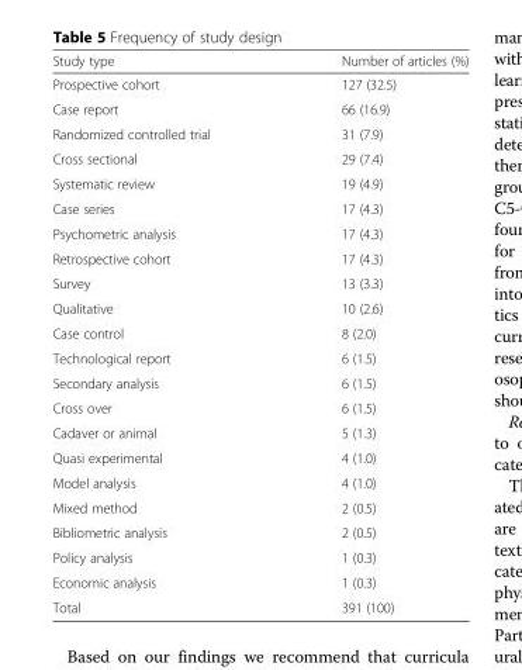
<table><thead><tr><td>Study type</td><td>Number of articles (%)</td></tr></thead><tbody><tr><td>Prospective cohort</td><td>127 (32.5)</td></tr><tr><td>Case report</td><td>66 (16.9)</td></tr><tr><td>Randomized controlled trial</td><td>31 (7.9)</td></tr><tr><td>Cross sectional</td><td>29 (7.4)</td></tr><tr><td>Systematic review</td><td>19 (4.9)</td></tr><tr><td>Case series</td><td>17 (4.3)</td></tr><tr><td>Psychometric analysis</td><td>17 (4.3)</td></tr><tr><td>Retrospective cohort</td><td>17 (4.3)</td></tr><tr><td>Survey</td><td>13 (3.3)</td></tr><tr><td>Qualitative</td><td>10 (2.6)</td></tr><tr><td>Case control</td><td>8 (2.0)</td></tr><tr><td>Technological report</td><td>6 (1.5)</td></tr><tr><td>Secondary analysis</td><td>6 (1.5)</td></tr><tr><td>Cross over</td><td>6 (1.5)</td></tr><tr><td>Cadaver or animal</td><td>5 (1.3)</td></tr><tr><td>Quasi experimental</td><td>4 (1.0)</td></tr><tr><td>Model analysis</td><td>4 (1.0)</td></tr><tr><td>Mixed method</td><td>2 (0.5)</td></tr><tr><td>Bibliometric analysis</td><td>2 (0.5)</td></tr><tr><td>Policy analysis</td><td>1 (0.3)</td></tr><tr><td>Economic analysis</td><td>1 (0.3)</td></tr><tr><td>Total</td><td>391 (100)</td></tr></tbody></table>